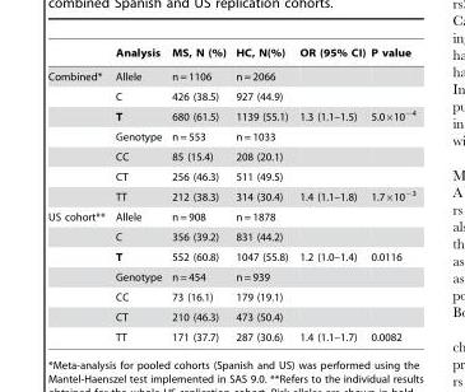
<table><thead><tr><td></td><td>Analysis</td><td>MS, N (%)</td><td>HC, N(%)</td><td>OR (95% CI)</td><td>P value</td></tr></thead><tbody><tr><td rowspan="7">Combined*</td><td>Allele</td><td>n = 1106</td><td>n = 2066</td><td></td><td></td></tr><tr><td>C</td><td>426 (38.5)</td><td>927 (44.9)</td><td></td><td></td></tr><tr><td>T</td><td>680 (61.5)</td><td>1139 (55.1)</td><td>1.3 (1.1–1.5)</td><td>5.0×10<sup>−4</sup></td></tr><tr><td>Genotype</td><td>n = 553</td><td>n = 1033</td><td></td><td></td></tr><tr><td>CC</td><td>85 (15.4)</td><td>208 (20.1)</td><td></td><td></td></tr><tr><td>CT</td><td>256 (46.3)</td><td>511 (49.5)</td><td></td><td></td></tr><tr><td>TT</td><td>212 (38.3)</td><td>314 (30.4)</td><td>1.4 (1.1–1.8)</td><td>1.7×10<sup>−3</sup></td></tr><tr><td rowspan="7">US cohort**</td><td>Allele</td><td>n = 908</td><td>n = 1878</td><td></td><td></td></tr><tr><td>C</td><td>356 (39.2)</td><td>831 (44.2)</td><td></td><td></td></tr><tr><td>T</td><td>552 (60.8)</td><td>1047 (55.8)</td><td>1.2 (1.0–1.4)</td><td>0.0116</td></tr><tr><td>Genotype</td><td>n = 454</td><td>n = 939</td><td></td><td></td></tr><tr><td>CC</td><td>73 (16.1)</td><td>179 (19.1)</td><td></td><td></td></tr><tr><td>CT</td><td>210 (46.3)</td><td>473 (50.4)</td><td></td><td></td></tr><tr><td>TT</td><td>171 (37.7)</td><td>287 (30.6)</td><td>1.4 (1.1–1.7)</td><td>0.0082</td></tr></tbody></table>